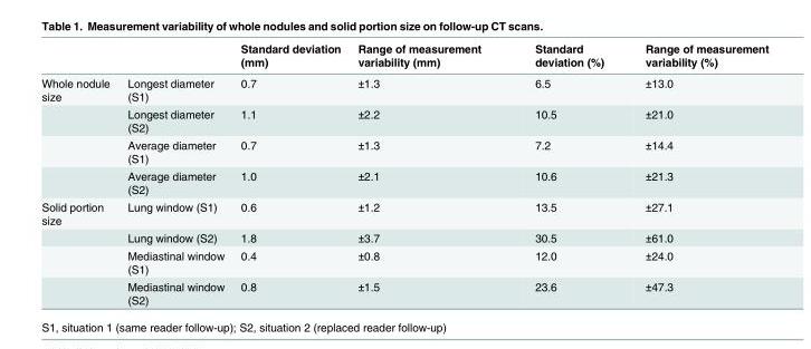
<table><thead><tr><td></td><td></td><td>Standard deviation (mm)</td><td>Range of measurement variability (mm)</td><td>Standard deviation (%)</td><td>Range of measurement variability (%)</td></tr></thead><tbody><tr><td rowspan="4">Whole nodule size</td><td>Longest diameter (S1)</td><td>0.7</td><td>±1.3</td><td>6.5</td><td>±13.0</td></tr><tr><td>Longest diameter (S2)</td><td>1.1</td><td>±2.2</td><td>10.5</td><td>±21.0</td></tr><tr><td>Average diameter (S1)</td><td>0.7</td><td>±1.3</td><td>7.2</td><td>±14.4</td></tr><tr><td>Average diameter (S2)</td><td>1.0</td><td>±2.1</td><td>10.6</td><td>±21.3</td></tr><tr><td rowspan="4">Solid portion size</td><td>Lung window (S1)</td><td>0.6</td><td>±1.2</td><td>13.5</td><td>±27.1</td></tr><tr><td>Lung window (S2)</td><td>1.8</td><td>±3.7</td><td>30.5</td><td>±61.0</td></tr><tr><td>Mediastinal window (S1)</td><td>0.4</td><td>±0.8</td><td>12.0</td><td>±24.0</td></tr><tr><td>Mediastinal window (S2)</td><td>0.8</td><td>±1.5</td><td>23.6</td><td>±47.3</td></tr></tbody></table>